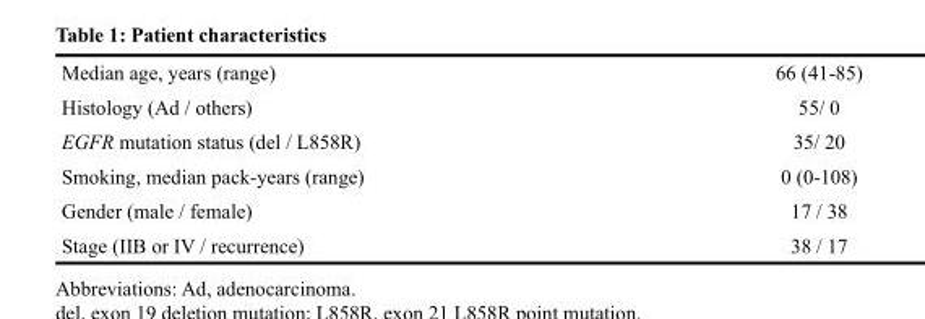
<table><tbody><tr><td>Median age, years (range)</td><td>66 (41-85)</td></tr><tr><td>Histology (Ad / others)</td><td>55/ 0</td></tr><tr><td>EGFR mutation status (del / L858R)</td><td>35/ 20</td></tr><tr><td>Smoking, median pack-years (range)</td><td>0 (0-108)</td></tr><tr><td>Gender (male / female)</td><td>17 / 38</td></tr><tr><td>Stage (IIB or IV / recurrence)</td><td>38 / 17</td></tr></tbody></table>